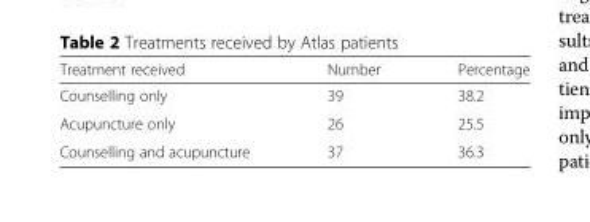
<table><thead><tr><td>Treatment received</td><td>Number</td><td>Percentage</td></tr></thead><tbody><tr><td>Counselling only</td><td>39</td><td>38.2</td></tr><tr><td>Acupuncture only</td><td>26</td><td>25.5</td></tr><tr><td>Counselling and acupuncture</td><td>37</td><td>36.3</td></tr></tbody></table>